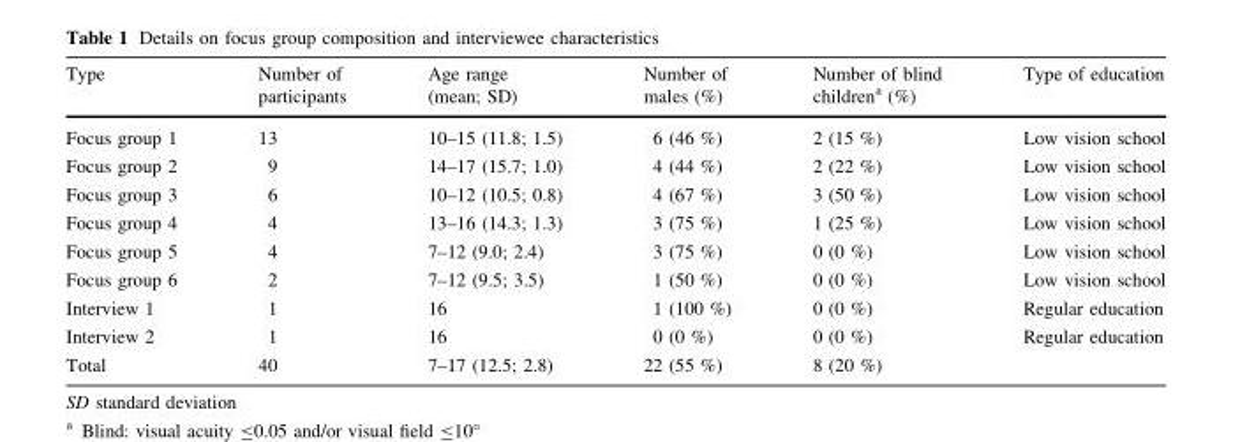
<table><thead><tr><td>Type</td><td>Number of participants</td><td>Age range (mean; SD)</td><td>Number of males (%)</td><td>Number of blind children<sup>a</sup> (%)</td><td>Type of education</td></tr></thead><tbody><tr><td>Focus group 1</td><td>13</td><td>10–15 (11.8; 1.5)</td><td>6 (46 %)</td><td>2 (15 %)</td><td>Low vision school</td></tr><tr><td>Focus group 2</td><td>9</td><td>14–17 (15.7; 1.0)</td><td>4 (44 %)</td><td>2 (22 %)</td><td>Low vision school</td></tr><tr><td>Focus group 3</td><td>6</td><td>10–12 (10.5; 0.8)</td><td>4 (67 %)</td><td>3 (50 %)</td><td>Low vision school</td></tr><tr><td>Focus group 4</td><td>4</td><td>13–16 (14.3; 1.3)</td><td>3 (75 %)</td><td>1 (25 %)</td><td>Low vision school</td></tr><tr><td>Focus group 5</td><td>4</td><td>7–12 (9.0; 2.4)</td><td>3 (75 %)</td><td>0 (0 %)</td><td>Low vision school</td></tr><tr><td>Focus group 6</td><td>2</td><td>7–12 (9.5; 3.5)</td><td>1 (50 %)</td><td>0 (0 %)</td><td>Low vision school</td></tr><tr><td>Interview 1</td><td>1</td><td>16</td><td>1 (100 %)</td><td>0 (0 %)</td><td>Regular education</td></tr><tr><td>Interview 2</td><td>1</td><td>16</td><td>0 (0 %)</td><td>0 (0 %)</td><td>Regular education</td></tr><tr><td>Total</td><td>40</td><td>7–17 (12.5; 2.8)</td><td>22 (55 %)</td><td>8 (20 %)</td><td></td></tr></tbody></table>